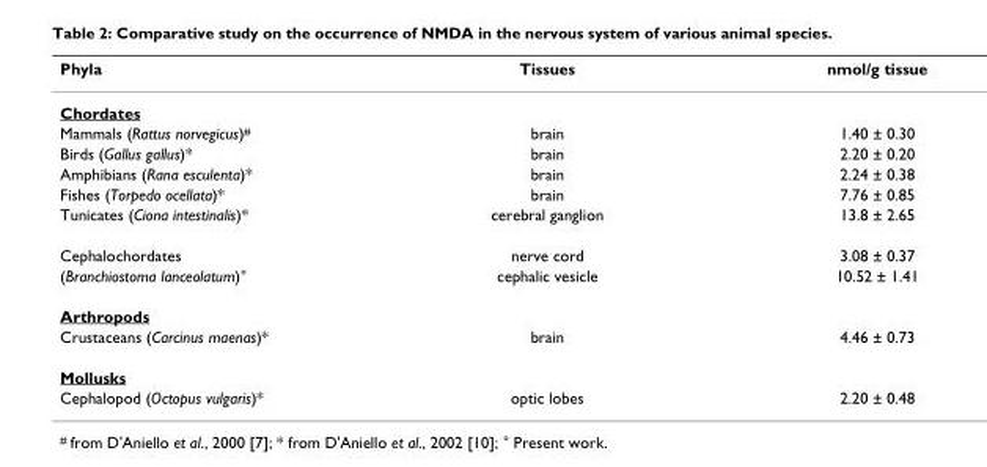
<table><thead><tr><td>Phyla</td><td>Tissues</td><td>nmol/g tissue</td></tr></thead><tbody><tr><td colspan="3">Chordates</td></tr><tr><td>Mammals (Rattus norvegicus)<sup>#</sup></td><td>brain</td><td>1.40 ± 0.30</td></tr><tr><td>Birds (Gallus gallus)*</td><td>brain</td><td>2.20 ± 0.20</td></tr><tr><td>Amphibians (Rana esculenta)*</td><td>brain</td><td>2.24 ± 0.38</td></tr><tr><td>Fishes (Torpedo ocellata)*</td><td>brain</td><td>7.76 ± 0.85</td></tr><tr><td>Tunicates (Ciona intestinalis)*</td><td>cerebral ganglion</td><td>13.8 ± 2.65</td></tr><tr><td>Cephalochordates</td><td>nerve cord</td><td>3.08 ± 0.37</td></tr><tr><td>(Branchiostoma lanceolatum)°</td><td>cephalic vesicle</td><td>10.52 ± 1.41</td></tr><tr><td colspan="3">Arthropods</td></tr><tr><td>Crustaceans (Carcinus maenas)*</td><td>brain</td><td>4.46 ± 0.73</td></tr><tr><td colspan="3">Mollusks</td></tr><tr><td>Cephalopod (Octopus vulgaris)*</td><td>optic lobes</td><td>2.20 ± 0.48</td></tr></tbody></table>